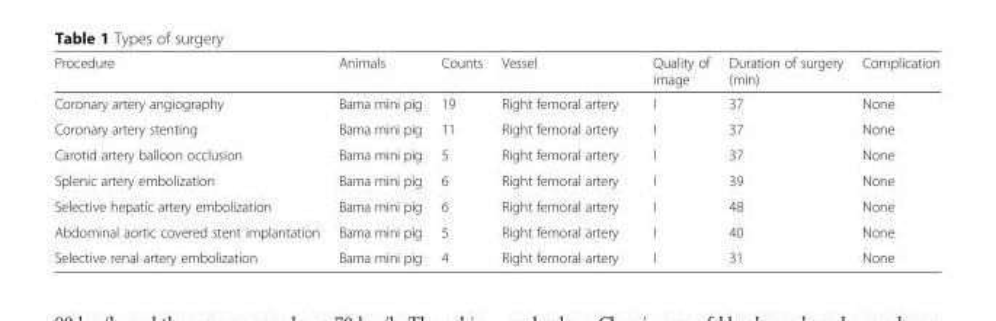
<table><thead><tr><td>Procedure</td><td>Animals</td><td>Counts</td><td>Vessel</td><td>Quality of image</td><td>Duration of surgery (min)</td><td>Complication</td></tr></thead><tbody><tr><td>Coronary artery angiography</td><td>Bama mini pig</td><td>19</td><td>Right femoral artery</td><td>I</td><td>37</td><td>None</td></tr><tr><td>Coronary artery stenting</td><td>Bama mini pig</td><td>11</td><td>Right femoral artery</td><td>I</td><td>37</td><td>None</td></tr><tr><td>Carotid artery balloon occlusion</td><td>Bama mini pig</td><td>5</td><td>Right femoral artery</td><td>I</td><td>37</td><td>None</td></tr><tr><td>Splenic artery embolization</td><td>Bama mini pig</td><td>6</td><td>Right femoral artery</td><td>I</td><td>39</td><td>None</td></tr><tr><td>Selective hepatic artery embolization</td><td>Bama mini pig</td><td>6</td><td>Right femoral artery</td><td>I</td><td>48</td><td>None</td></tr><tr><td>Abdominal aortic covered stent implantation</td><td>Bama mini pig</td><td>5</td><td>Right femoral artery</td><td>I</td><td>40</td><td>None</td></tr><tr><td>Selective renal artery embolization</td><td>Bama mini pig</td><td>4</td><td>Right femoral artery</td><td>I</td><td>31</td><td>None</td></tr></tbody></table>